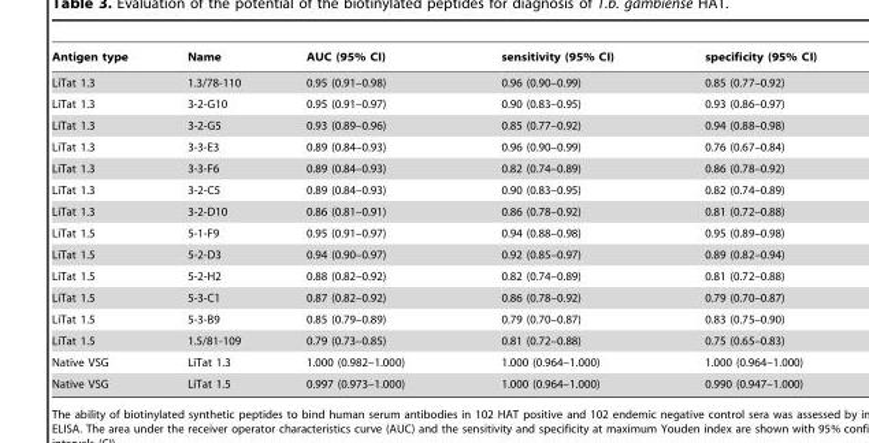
<table><thead><tr><td>Antigen type</td><td>Name</td><td>AUC (95% CI)</td><td>sensitivity (95% CI)</td><td>specificity (95% CI)</td></tr></thead><tbody><tr><td>LiTat 1.3</td><td>1.3/78-110</td><td>0.95 (0.91–0.98)</td><td>0.96 (0.90–0.99)</td><td>0.85 (0.77–0.92)</td></tr><tr><td>LiTat 1.3</td><td>3-2-G10</td><td>0.95 (0.91–0.97)</td><td>0.90 (0.83–0.95)</td><td>0.93 (0.86–0.97)</td></tr><tr><td>LiTat 1.3</td><td>3-2-G5</td><td>0.93 (0.89–0.96)</td><td>0.85 (0.77–0.92)</td><td>0.94 (0.88–0.98)</td></tr><tr><td>LiTat 1.3</td><td>3-3-E3</td><td>0.89 (0.84–0.93)</td><td>0.96 (0.90–0.99)</td><td>0.76 (0.67–0.84)</td></tr><tr><td>LiTat 1.3</td><td>3-3-F6</td><td>0.89 (0.84–0.93)</td><td>0.82 (0.74–0.89)</td><td>0.86 (0.78–0.92)</td></tr><tr><td>LiTat 1.3</td><td>3-2-C5</td><td>0.89 (0.84–0.93)</td><td>0.90 (0.83–0.95)</td><td>0.82 (0.74–0.89)</td></tr><tr><td>LiTat 1.3</td><td>3-2-D10</td><td>0.86 (0.81–0.91)</td><td>0.86 (0.78–0.92)</td><td>0.81 (0.72–0.88)</td></tr><tr><td>LiTat 1.5</td><td>5-1-F9</td><td>0.95 (0.91–0.97)</td><td>0.94 (0.88–0.98)</td><td>0.95 (0.89–0.98)</td></tr><tr><td>LiTat 1.5</td><td>5-2-D3</td><td>0.94 (0.90–0.97)</td><td>0.92 (0.85–0.97)</td><td>0.89 (0.82–0.94)</td></tr><tr><td>LiTat 1.5</td><td>5-2-H2</td><td>0.88 (0.82–0.92)</td><td>0.82 (0.74–0.89)</td><td>0.81 (0.72–0.88)</td></tr><tr><td>LiTat 1.5</td><td>5-3-C1</td><td>0.87 (0.82–0.92)</td><td>0.86 (0.78–0.92)</td><td>0.79 (0.70–0.87)</td></tr><tr><td>LiTat 1.5</td><td>5-3-B9</td><td>0.85 (0.79–0.89)</td><td>0.79 (0.70–0.87)</td><td>0.83 (0.75–0.90)</td></tr><tr><td>LiTat 1.5</td><td>1.5/81-109</td><td>0.79 (0.73–0.85)</td><td>0.81 (0.72–0.88)</td><td>0.75 (0.65–0.83)</td></tr><tr><td>Native VSG</td><td>LiTat 1.3</td><td>1.000 (0.982–1.000)</td><td>1.000 (0.964–1.000)</td><td>1.000 (0.964–1.000)</td></tr><tr><td>Native VSG</td><td>LiTat 1.5</td><td>0.997 (0.973–1.000)</td><td>1.000 (0.964–1.000)</td><td>0.990 (0.947–1.000)</td></tr></tbody></table>